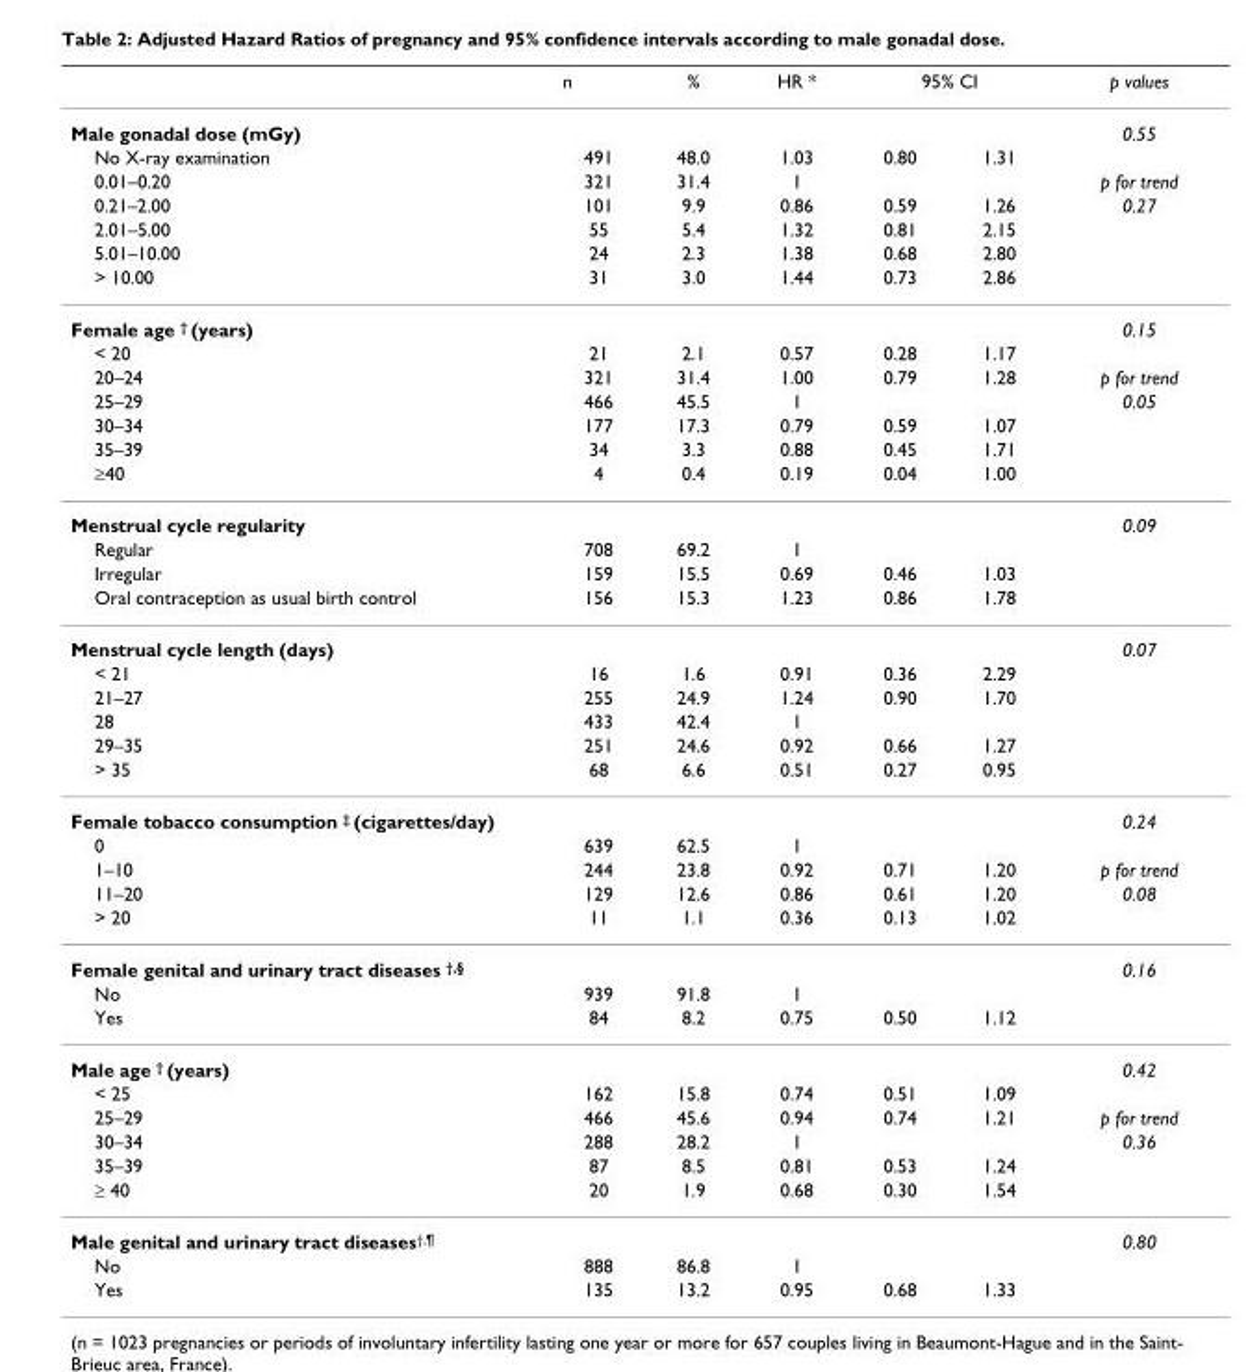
<table><thead><tr><td rowspan="2">Male gonadal dose (mGy)</td><td rowspan="2">n</td><td rowspan="2">%</td><td rowspan="2">HR *</td><td colspan="2">95% CI</td><td rowspan="2">p values 0.55</td></tr><tr><td></td><td></td></tr></thead><tbody><tr><td>No X-ray examination</td><td>491</td><td>48.0</td><td>1.03</td><td>0.80</td><td>1.31</td><td></td></tr><tr><td>0.01–0.20</td><td>321</td><td>31.4</td><td>1</td><td></td><td></td><td>p for trend</td></tr><tr><td>0.21–2.00</td><td>101</td><td>9.9</td><td>0.86</td><td>0.59</td><td>1.26</td><td>0.27</td></tr><tr><td>2.01–5.00</td><td>55</td><td>5.4</td><td>1.32</td><td>0.81</td><td>2.15</td><td></td></tr><tr><td>5.01–10.00</td><td>24</td><td>2.3</td><td>1.38</td><td>0.68</td><td>2.80</td><td></td></tr><tr><td>&gt; 10.00</td><td>31</td><td>3.0</td><td>1.44</td><td>0.73</td><td>2.86</td><td></td></tr><tr><td>Female age † (years)</td><td></td><td></td><td></td><td></td><td></td><td>0.15</td></tr><tr><td>&lt; 20</td><td>21</td><td>2.1</td><td>0.57</td><td>0.28</td><td>1.17</td><td></td></tr><tr><td>20–24</td><td>321</td><td>31.4</td><td>1.00</td><td>0.79</td><td>1.28</td><td>p for trend</td></tr><tr><td>25–29</td><td>466</td><td>45.5</td><td>1</td><td></td><td></td><td>0.05</td></tr><tr><td>30–34</td><td>177</td><td>17.3</td><td>0.79</td><td>0.59</td><td>1.07</td><td></td></tr><tr><td>35–39</td><td>34</td><td>3.3</td><td>0.88</td><td>0.45</td><td>1.71</td><td></td></tr><tr><td>≥40</td><td>4</td><td>0.4</td><td>0.19</td><td>0.04</td><td>1.00</td><td></td></tr><tr><td>Menstrual cycle regularity</td><td></td><td></td><td></td><td></td><td></td><td>0.09</td></tr><tr><td>Regular</td><td>708</td><td>69.2</td><td>1</td><td></td><td></td><td></td></tr><tr><td>Irregular</td><td>159</td><td>15.5</td><td>0.69</td><td>0.46</td><td>1.03</td><td></td></tr><tr><td>Oral contraception as usual birth control</td><td>156</td><td>15.3</td><td>1.23</td><td>0.86</td><td>1.78</td><td></td></tr><tr><td>Menstrual cycle length (days)</td><td></td><td></td><td></td><td></td><td></td><td>0.07</td></tr><tr><td>&lt; 21</td><td>16</td><td>1.6</td><td>0.91</td><td>0.36</td><td>2.29</td><td></td></tr><tr><td>21–27</td><td>255</td><td>24.9</td><td>1.24</td><td>0.90</td><td>1.70</td><td></td></tr><tr><td>28</td><td>433</td><td>42.4</td><td>1</td><td></td><td></td><td></td></tr><tr><td>29–35</td><td>251</td><td>24.6</td><td>0.92</td><td>0.66</td><td>1.27</td><td></td></tr><tr><td>&gt; 35</td><td>68</td><td>6.6</td><td>0.51</td><td>0.27</td><td>0.95</td><td></td></tr><tr><td>Female tobacco consumption ‡ (cigarettes/day)</td><td></td><td></td><td></td><td></td><td></td><td>0.24</td></tr><tr><td>0</td><td>639</td><td>62.5</td><td>1</td><td></td><td></td><td></td></tr><tr><td>1–10</td><td>244</td><td>23.8</td><td>0.92</td><td>0.71</td><td>1.20</td><td>p for trend</td></tr><tr><td>11–20</td><td>129</td><td>12.6</td><td>0.86</td><td>0.61</td><td>1.20</td><td>0.08</td></tr><tr><td>&gt; 20</td><td>11</td><td>1.1</td><td>0.36</td><td>0.13</td><td>1.02</td><td></td></tr><tr><td>Female genital and urinary tract diseases †,§</td><td></td><td></td><td></td><td></td><td></td><td>0.16</td></tr><tr><td>No</td><td>939</td><td>91.8</td><td>1</td><td></td><td></td><td></td></tr><tr><td>Yes</td><td>84</td><td>8.2</td><td>0.75</td><td>0.50</td><td>1.12</td><td></td></tr><tr><td>Male age † (years)</td><td></td><td></td><td></td><td></td><td></td><td>0.42</td></tr><tr><td>&lt; 25</td><td>162</td><td>15.8</td><td>0.74</td><td>0.51</td><td>1.09</td><td></td></tr><tr><td>25–29</td><td>466</td><td>45.6</td><td>0.94</td><td>0.74</td><td>1.21</td><td>p for trend</td></tr><tr><td>30–34</td><td>288</td><td>28.2</td><td>1</td><td></td><td></td><td>0.36</td></tr><tr><td>35–39</td><td>87</td><td>8.5</td><td>0.81</td><td>0.53</td><td>1.24</td><td></td></tr><tr><td>≥ 40</td><td>20</td><td>1.9</td><td>0.68</td><td>0.30</td><td>1.54</td><td></td></tr><tr><td>Male genital and urinary tract diseases†,¶</td><td></td><td></td><td></td><td></td><td></td><td>0.80</td></tr><tr><td>No</td><td>888</td><td>86.8</td><td>1</td><td></td><td></td><td></td></tr><tr><td>Yes</td><td>135</td><td>13.2</td><td>0.95</td><td>0.68</td><td>1.33</td><td></td></tr></tbody></table>